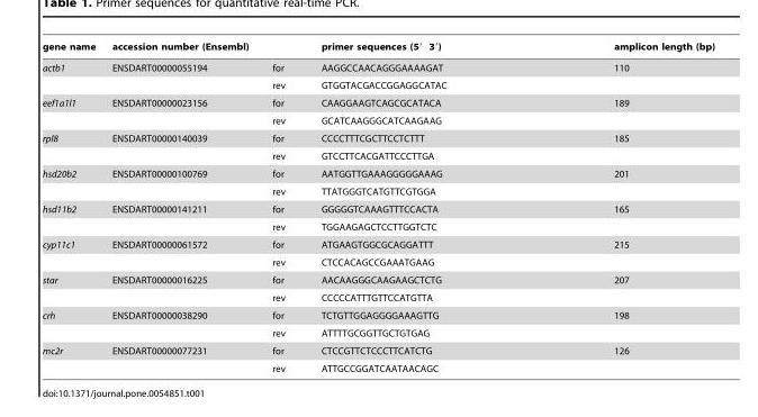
<table><thead><tr><td>gene name</td><td>accession number (Ensembl)</td><td></td><td>primer sequences (5′ 3′)</td><td>amplicon length (bp)</td></tr></thead><tbody><tr><td rowspan="2">actb1</td><td>ENSDART00000055194</td><td>for</td><td>AAGGCCAACAGGGAAAAGAT</td><td>110</td></tr><tr><td></td><td>rev</td><td>GTGGTACGACCGGAGGCATAC</td><td></td></tr><tr><td rowspan="2">eef1a1l1</td><td>ENSDART00000023156</td><td>for</td><td>CAAGGAAGTCAGCGCATACA</td><td>189</td></tr><tr><td></td><td>rev</td><td>GCATCAAGGGCATCAAGAAG</td><td></td></tr><tr><td rowspan="2">rpl8</td><td>ENSDART00000140039</td><td>for</td><td>CCCCTTTCGCTTCCTCTTT</td><td>185</td></tr><tr><td></td><td>rev</td><td>GTCCTTCACGATTCCCTTGA</td><td></td></tr><tr><td rowspan="2">hsd20b2</td><td>ENSDART00000100769</td><td>for</td><td>AATGGTTGAAAGGGGGAAAG</td><td>201</td></tr><tr><td></td><td>rev</td><td>TTATGGGTCATGTTCGTGGA</td><td></td></tr><tr><td rowspan="2">hsd11b2</td><td>ENSDART00000141211</td><td>for</td><td>GGGGGTCAAAGTTTCCACTA</td><td>165</td></tr><tr><td></td><td>rev</td><td>TGGAAGAGCTCCTTGGTCTC</td><td></td></tr><tr><td rowspan="2">cyp11c1</td><td>ENSDART00000061572</td><td>for</td><td>ATGAAGTGGCGCAGGATTT</td><td>215</td></tr><tr><td></td><td>rev</td><td>CTCCACAGCCGAAATGAAG</td><td></td></tr><tr><td rowspan="2">star</td><td>ENSDART00000016225</td><td>for</td><td>AACAAGGGCAAGAAGCTCTG</td><td>207</td></tr><tr><td></td><td>rev</td><td>CCCCCATTTGTTCCATGTTA</td><td></td></tr><tr><td rowspan="2">crh</td><td>ENSDART00000038290</td><td>for</td><td>TCTGTTGGAGGGGAAAGTTG</td><td>198</td></tr><tr><td></td><td>rev</td><td>ATTTTGCGGTTGCTGTGAG</td><td></td></tr><tr><td rowspan="2">mc2r</td><td>ENSDART00000077231</td><td>for</td><td>CTCCGTTCTCCCTTCATCTG</td><td>126</td></tr><tr><td></td><td>rev</td><td>ATTGCCGGATCAATAACAGC</td><td></td></tr></tbody></table>